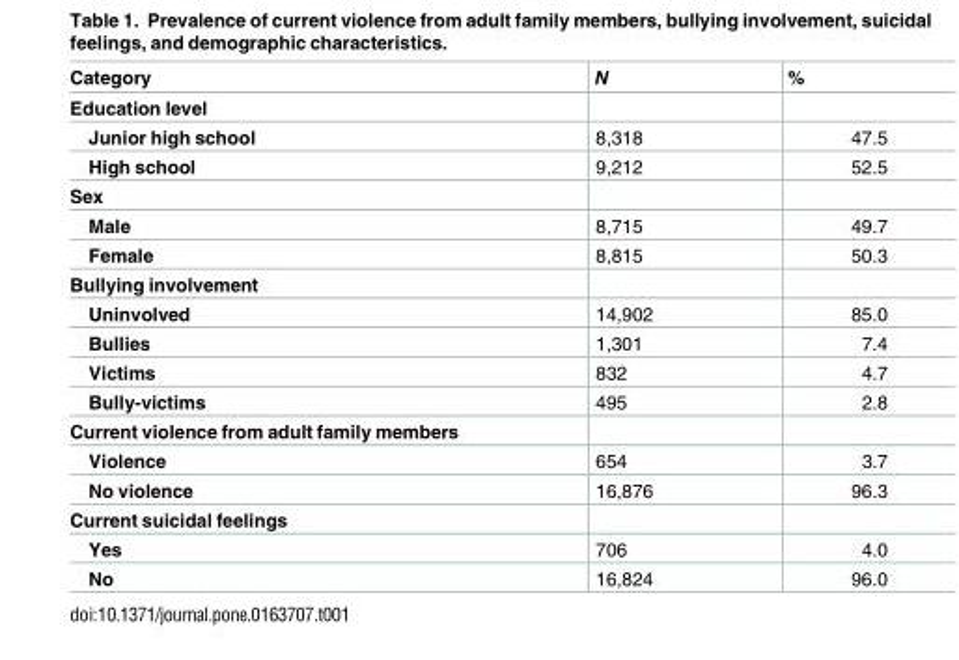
<table><thead><tr><td>Category</td><td>N</td><td>%</td></tr></thead><tbody><tr><td colspan="3">Education level</td></tr><tr><td>Junior high school</td><td>8,318</td><td>47.5</td></tr><tr><td>High school</td><td>9,212</td><td>52.5</td></tr><tr><td colspan="3">Sex</td></tr><tr><td>Male</td><td>8,715</td><td>49.7</td></tr><tr><td>Female</td><td>8,815</td><td>50.3</td></tr><tr><td colspan="3">Bullying involvement</td></tr><tr><td>Uninvolved</td><td>14,902</td><td>85.0</td></tr><tr><td>Bullies</td><td>1,301</td><td>7.4</td></tr><tr><td>Victims</td><td>832</td><td>4.7</td></tr><tr><td>Bully-victims</td><td>495</td><td>2.8</td></tr><tr><td colspan="3">Current violence from adult family members</td></tr><tr><td>Violence</td><td>654</td><td>3.7</td></tr><tr><td>No violence</td><td>16,876</td><td>96.3</td></tr><tr><td colspan="3">Current suicidal feelings</td></tr><tr><td>Yes</td><td>706</td><td>4.0</td></tr><tr><td>No</td><td>16,824</td><td>96.0</td></tr></tbody></table>